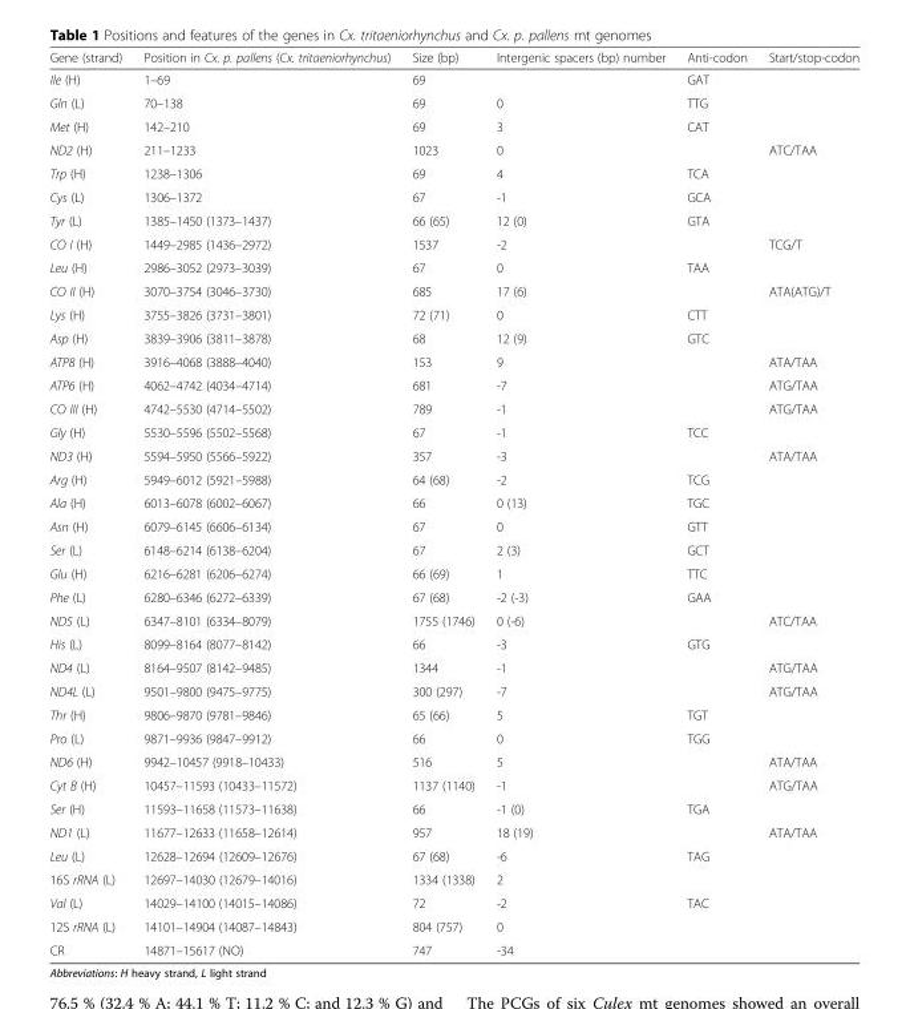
<table><thead><tr><td>Gene (strand)</td><td>Position in Cx. p. pallens (Cx. tritaeniorhynchus)</td><td>Size (bp)</td><td>Intergenic spacers (bp) number</td><td>Anti-codon</td><td>Start/stop-codon</td></tr></thead><tbody><tr><td>Ile (H)</td><td>1–69</td><td>69</td><td></td><td>GAT</td><td></td></tr><tr><td>Gln (L)</td><td>70–138</td><td>69</td><td>0</td><td>TTG</td><td></td></tr><tr><td>Met (H)</td><td>142–210</td><td>69</td><td>3</td><td>CAT</td><td></td></tr><tr><td>ND2 (H)</td><td>211–1233</td><td>1023</td><td>0</td><td></td><td>ATC/TAA</td></tr><tr><td>Trp (H)</td><td>1238–1306</td><td>69</td><td>4</td><td>TCA</td><td></td></tr><tr><td>Cys (L)</td><td>1306–1372</td><td>67</td><td>-1</td><td>GCA</td><td></td></tr><tr><td>Tyr (L)</td><td>1385–1450 (1373–1437)</td><td>66 (65)</td><td>12 (0)</td><td>GTA</td><td></td></tr><tr><td>CO I (H)</td><td>1449–2985 (1436–2972)</td><td>1537</td><td>-2</td><td></td><td>TCG/T</td></tr><tr><td>Leu (H)</td><td>2986–3052 (2973–3039)</td><td>67</td><td>0</td><td>TAA</td><td></td></tr><tr><td>CO II (H)</td><td>3070–3754 (3046–3730)</td><td>685</td><td>17 (6)</td><td></td><td>ATA(ATG)/T</td></tr><tr><td>Lys (H)</td><td>3755–3826 (3731–3801)</td><td>72 (71)</td><td>0</td><td>CTT</td><td></td></tr><tr><td>Asp (H)</td><td>3839–3906 (3811–3878)</td><td>68</td><td>12 (9)</td><td>GTC</td><td></td></tr><tr><td>ATP8 (H)</td><td>3916–4068 (3888–4040)</td><td>153</td><td>9</td><td></td><td>ATA/TAA</td></tr><tr><td>ATP6 (H)</td><td>4062–4742 (4034–4714)</td><td>681</td><td>-7</td><td></td><td>ATG/TAA</td></tr><tr><td>CO III (H)</td><td>4742–5530 (4714–5502)</td><td>789</td><td>-1</td><td></td><td>ATG/TAA</td></tr><tr><td>Gly (H)</td><td>5530–5596 (5502–5568)</td><td>67</td><td>-1</td><td>TCC</td><td></td></tr><tr><td>ND3 (H)</td><td>5594–5950 (5566–5922)</td><td>357</td><td>-3</td><td></td><td>ATA/TAA</td></tr><tr><td>Arg (H)</td><td>5949–6012 (5921–5988)</td><td>64 (68)</td><td>-2</td><td>TCG</td><td></td></tr><tr><td>Ala (H)</td><td>6013–6078 (6002–6067)</td><td>66</td><td>0 (13)</td><td>TGC</td><td></td></tr><tr><td>Asn (H)</td><td>6079–6145 (6606–6134)</td><td>67</td><td>0</td><td>GTT</td><td></td></tr><tr><td>Ser (L)</td><td>6148–6214 (6138–6204)</td><td>67</td><td>2 (3)</td><td>GCT</td><td></td></tr><tr><td>Glu (H)</td><td>6216–6281 (6206–6274)</td><td>66 (69)</td><td>1</td><td>TTC</td><td></td></tr><tr><td>Phe (L)</td><td>6280–6346 (6272–6339)</td><td>67 (68)</td><td>-2 (-3)</td><td>GAA</td><td></td></tr><tr><td>ND5 (L)</td><td>6347–8101 (6334–8079)</td><td>1755 (1746)</td><td>0 (-6)</td><td></td><td>ATC/TAA</td></tr><tr><td>His (L)</td><td>8099–8164 (8077–8142)</td><td>66</td><td>-3</td><td>GTG</td><td></td></tr><tr><td>ND4 (L)</td><td>8164–9507 (8142–9485)</td><td>1344</td><td>-1</td><td></td><td>ATG/TAA</td></tr><tr><td>ND4L (L)</td><td>9501–9800 (9475–9775)</td><td>300 (297)</td><td>-7</td><td></td><td>ATG/TAA</td></tr><tr><td>Thr (H)</td><td>9806–9870 (9781–9846)</td><td>65 (66)</td><td>5</td><td>TGT</td><td></td></tr><tr><td>Pro (L)</td><td>9871–9936 (9847–9912)</td><td>66</td><td>0</td><td>TGG</td><td></td></tr><tr><td>ND6 (H)</td><td>9942–10457 (9918–10433)</td><td>516</td><td>5</td><td></td><td>ATA/TAA</td></tr><tr><td>Cyt B (H)</td><td>10457–11593 (10433–11572)</td><td>1137 (1140)</td><td>-1</td><td></td><td>ATG/TAA</td></tr><tr><td>Ser (H)</td><td>11593–11658 (11573–11638)</td><td>66</td><td>-1 (0)</td><td>TGA</td><td></td></tr><tr><td>ND1 (L)</td><td>11677–12633 (11658–12614)</td><td>957</td><td>18 (19)</td><td></td><td>ATA/TAA</td></tr><tr><td>Leu (L)</td><td>12628–12694 (12609–12676)</td><td>67 (68)</td><td>-6</td><td>TAG</td><td></td></tr><tr><td>16S rRNA (L)</td><td>12697–14030 (12679–14016)</td><td>1334 (1338)</td><td>2</td><td></td><td></td></tr><tr><td>Val (L)</td><td>14029–14100 (14015–14086)</td><td>72</td><td>-2</td><td>TAC</td><td></td></tr><tr><td>12S rRNA (L)</td><td>14101–14904 (14087–14843)</td><td>804 (757)</td><td>0</td><td></td><td></td></tr><tr><td>CR</td><td>14871–15617 (NO)</td><td>747</td><td>-34</td><td></td><td></td></tr></tbody></table>